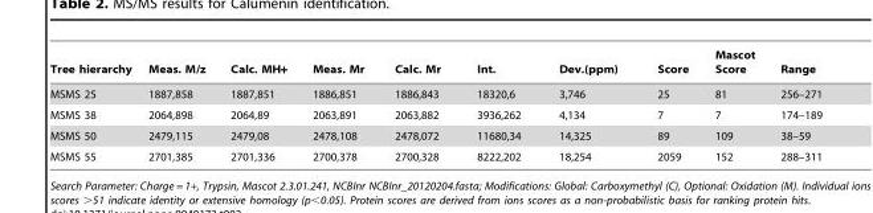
<table><thead><tr><td>Tree hierarchy</td><td>Meas. M/z</td><td>Calc. MH+</td><td>Meas. Mr</td><td>Calc. Mr</td><td>Int.</td><td>Dev.(ppm)</td><td>Score</td><td>Mascot Score</td><td>Range</td></tr></thead><tbody><tr><td>MSMS 25</td><td>1887,858</td><td>1887,851</td><td>1886,851</td><td>1886,843</td><td>18320,6</td><td>3,746</td><td>25</td><td>81</td><td>256–271</td></tr><tr><td>MSMS 38</td><td>2064,898</td><td>2064,89</td><td>2063,891</td><td>2063,882</td><td>3936,262</td><td>4,134</td><td>7</td><td>7</td><td>174–189</td></tr><tr><td>MSMS 50</td><td>2479,115</td><td>2479,08</td><td>2478,108</td><td>2478,072</td><td>11680,34</td><td>14,325</td><td>89</td><td>109</td><td>38–59</td></tr><tr><td>MSMS 55</td><td>2701,385</td><td>2701,336</td><td>2700,378</td><td>2700,328</td><td>8222,202</td><td>18,254</td><td>2059</td><td>152</td><td>288–311</td></tr></tbody></table>